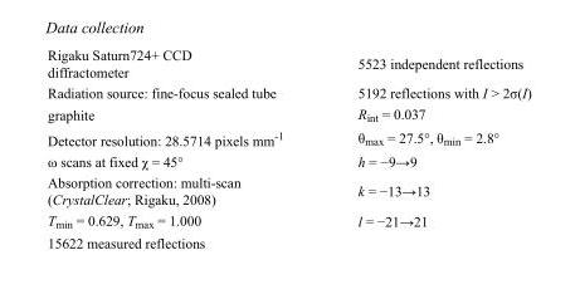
<table><tbody><tr><td>Rigaku Saturn724+ CCD diffractometer</td><td>5523 independent reflections</td></tr><tr><td>Radiation source: fine-focus sealed tube</td><td>5192 reflections with I &gt; 2σ(I)</td></tr><tr><td>graphite</td><td>R<sub>int</sub> = 0.037</td></tr><tr><td>Detector resolution: 28.5714 pixels mm<sup>-1</sup></td><td>θ<sub>max</sub> = 27.5°, θ<sub>min</sub> = 2.8°</td></tr><tr><td>ω scans at fixed χ = 45°</td><td>h = −9→9</td></tr><tr><td>Absorption correction: multi-scan (CrystalClear; Rigaku, 2008)</td><td>k = −13→13</td></tr><tr><td>T<sub>min</sub> = 0.629, T<sub>max</sub> = 1.000</td><td>l = −21→21</td></tr><tr><td>15622 measured reflections</td><td></td></tr></tbody></table>